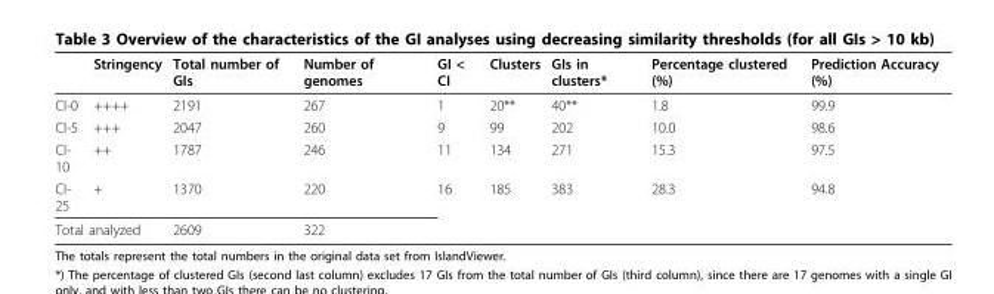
<table><thead><tr><td></td><td>Stringency</td><td>Total number of GIs</td><td>Number of genomes</td><td>GI &lt; CI</td><td>Clusters</td><td>GIs in clusters*</td><td>Percentage clustered (%)</td><td>Prediction Accuracy (%)</td></tr></thead><tbody><tr><td>CI-0</td><td>++++</td><td>2191</td><td>267</td><td>1</td><td>20**</td><td>40**</td><td>1.8</td><td>99.9</td></tr><tr><td>CI-5</td><td>+++</td><td>2047</td><td>260</td><td>9</td><td>99</td><td>202</td><td>10.0</td><td>98.6</td></tr><tr><td>CI- 10</td><td>++</td><td>1787</td><td>246</td><td>11</td><td>134</td><td>271</td><td>15.3</td><td>97.5</td></tr><tr><td>CI- 25</td><td>+</td><td>1370</td><td>220</td><td>16</td><td>185</td><td>383</td><td>28.3</td><td>94.8</td></tr><tr><td colspan="2">Total analyzed</td><td>2609</td><td>322</td><td></td><td></td><td></td><td></td><td></td></tr></tbody></table>